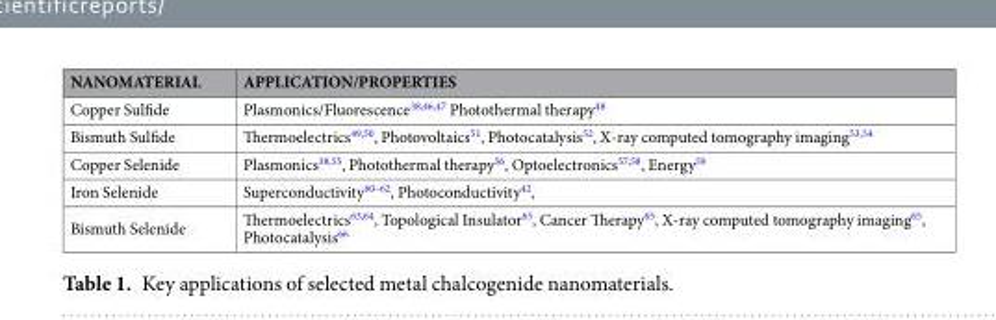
<table><thead><tr><td>NANOMATERIAL</td><td>APPLICATION/PROPERTIES</td></tr></thead><tbody><tr><td>Copper Sulfide</td><td>Plasmonics/Fluorescence<sup>38,46,47</sup> Photothermal therapy<sup>48</sup></td></tr><tr><td>Bismuth Sulfide</td><td>Thermoelectrics<sup>49,50</sup>, Photovoltaics<sup>51</sup>, Photocatalysis<sup>52</sup>, X-ray computed tomography imaging<sup>53,54</sup></td></tr><tr><td>Copper Selenide</td><td>Plasmonics<sup>38,55</sup>, Photothermal therapy<sup>56</sup>, Optoelectronics<sup>57,58</sup>, Energy<sup>59</sup></td></tr><tr><td>Iron Selenide</td><td>Superconductivity<sup>60–62</sup>, Photoconductivity<sup>42</sup>,</td></tr><tr><td>Bismuth Selenide</td><td>Thermoelectrics<sup>63,64</sup>, Topological Insulator<sup>65</sup>, Cancer Therapy<sup>65</sup>, X-ray computed tomography imaging<sup>65</sup>, Photocatalysis<sup>66</sup></td></tr></tbody></table>